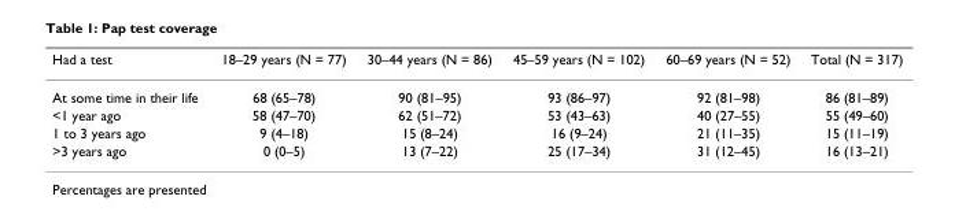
<table><thead><tr><td>Had a test</td><td>18–29 years (N = 77)</td><td>30–44 years (N = 86)</td><td>45–59 years (N = 102)</td><td>60–69 years (N = 52)</td><td>Total (N = 317)</td></tr></thead><tbody><tr><td>At some time in their life</td><td>68 (65–78)</td><td>90 (81–95)</td><td>93 (86–97)</td><td>92 (81–98)</td><td>86 (81–89)</td></tr><tr><td>&lt;1 year ago</td><td>58 (47–70)</td><td>62 (51–72)</td><td>53 (43–63)</td><td>40 (27–55)</td><td>55 (49–60)</td></tr><tr><td>1 to 3 years ago</td><td>9 (4–18)</td><td>15 (8–24)</td><td>16 (9–24)</td><td>21 (11–35)</td><td>15 (11–19)</td></tr><tr><td>&gt;3 years ago</td><td>0 (0–5)</td><td>13 (7–22)</td><td>25 (17–34)</td><td>31 (12–45)</td><td>16 (13–21)</td></tr></tbody></table>